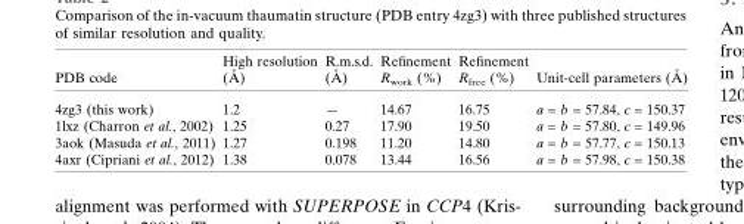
<table><thead><tr><td>PDB code</td><td>High resolution (A˚ )</td><td>R.m.s.d. (A˚ )</td><td>Refinement R<sub>work</sub> (%)</td><td>Refinement R<sub>free</sub> (%)</td><td>Unit-cell parameters (A˚ )</td></tr></thead><tbody><tr><td>4zg3 (this work)</td><td>1.2</td><td>—</td><td>14.67</td><td>16.75</td><td>a = b = 57.84, c = 150.37</td></tr><tr><td>1lxz (Charron et al., 2002)</td><td>1.25</td><td>0.27</td><td>17.90</td><td>19.50</td><td>a = b = 57.80, c = 149.96</td></tr><tr><td>3aok (Masuda et al., 2011)</td><td>1.27</td><td>0.198</td><td>11.20</td><td>14.80</td><td>a = b = 57.77, c = 150.13</td></tr><tr><td>4axr (Cipriani et al., 2012)</td><td>1.38</td><td>0.078</td><td>13.44</td><td>16.56</td><td>a = b = 57.98, c = 150.38</td></tr></tbody></table>